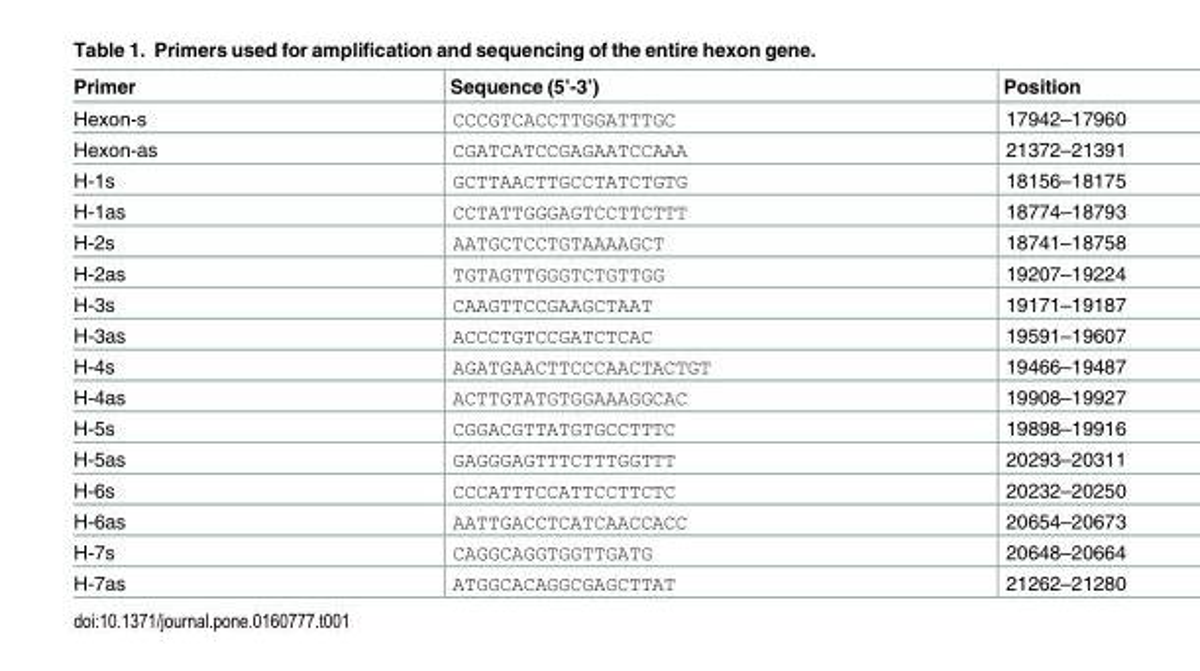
<table><thead><tr><td>Primer</td><td>Sequence (5’-3’)</td><td>Position</td></tr></thead><tbody><tr><td>Hexon-s</td><td>CCCGTCACCTTGGATTTGC</td><td>17942–17960</td></tr><tr><td>Hexon-as</td><td>CGATCATCCGAGAATCCAAA</td><td>21372–21391</td></tr><tr><td>H-1s</td><td>GCTTAACTTGCCTATCTGTG</td><td>18156–18175</td></tr><tr><td>H-1as</td><td>CCTATTGGGAGTCCTTCTTT</td><td>18774–18793</td></tr><tr><td>H-2s</td><td>AATGCTCCTGTAAAAGCT</td><td>18741–18758</td></tr><tr><td>H-2as</td><td>TGTAGTTGGGTCTGTTGG</td><td>19207–19224</td></tr><tr><td>H-3s</td><td>CAAGTTCCGAAGCTAAT</td><td>19171–19187</td></tr><tr><td>H-3as</td><td>ACCCTGTCCGATCTCAC</td><td>19591–19607</td></tr><tr><td>H-4s</td><td>AGATGAACTTCCCAACTACTGT</td><td>19466–19487</td></tr><tr><td>H-4as</td><td>ACTTGTATGTGGAAAGGCAC</td><td>19908–19927</td></tr><tr><td>H-5s</td><td>CGGACGTTATGTGCCTTTC</td><td>19898–19916</td></tr><tr><td>H-5as</td><td>GAGGGAGTTTCTTTGGTTT</td><td>20293–20311</td></tr><tr><td>H-6s</td><td>CCCATTTCCATTCCTTCTC</td><td>20232–20250</td></tr><tr><td>H-6as</td><td>AATTGACCTCATCAACCACC</td><td>20654–20673</td></tr><tr><td>H-7s</td><td>CAGGCAGGTGGTTGATG</td><td>20648–20664</td></tr><tr><td>H-7as</td><td>ATGGCACAGGCGAGCTTAT</td><td>21262–21280</td></tr></tbody></table>